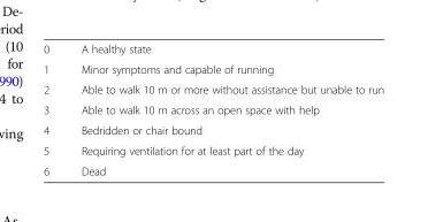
<table><tbody><tr><td>0</td><td>A healthy state</td></tr><tr><td>1</td><td>Minor symptoms and capable of running</td></tr><tr><td>2</td><td>Able to walk 10 m or more without assistance but unable to run</td></tr><tr><td>3</td><td>Able to walk 10 m across an open space with help</td></tr><tr><td>4</td><td>Bedridden or chair bound</td></tr><tr><td>5</td><td>Requiring ventilation for at least part of the day</td></tr><tr><td>6</td><td>Dead</td></tr></tbody></table>